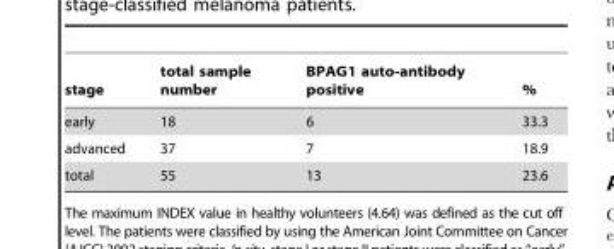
<table><thead><tr><td>stage</td><td>total sample number</td><td>BPAG1 auto-antibody positive</td><td>%</td></tr></thead><tbody><tr><td>early</td><td>18</td><td>6</td><td>33.3</td></tr><tr><td>advanced</td><td>37</td><td>7</td><td>18.9</td></tr><tr><td>total</td><td>55</td><td>13</td><td>23.6</td></tr></tbody></table>